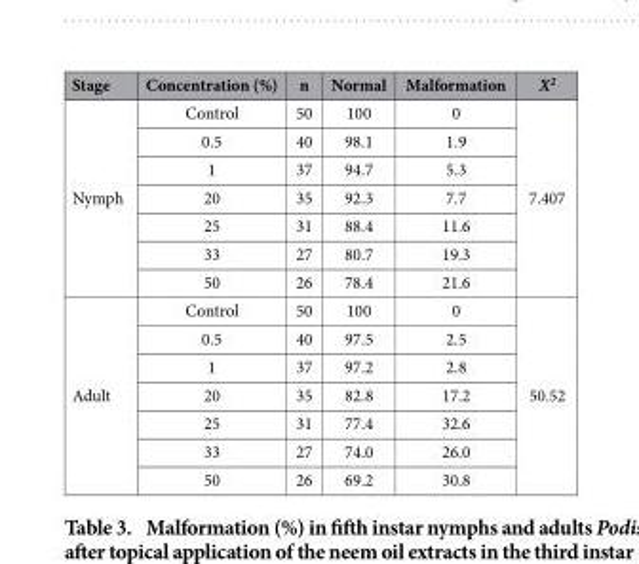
<table><thead><tr><td>Stage</td><td>Concentration (%)</td><td>n</td><td>Normal</td><td>Malformation</td><td>X<sup>2</sup></td></tr></thead><tbody><tr><td rowspan="7">Nymph</td><td>Control</td><td>50</td><td>100</td><td>0</td><td rowspan="7">7.407</td></tr><tr><td>0.5</td><td>40</td><td>98.1</td><td>1.9</td></tr><tr><td>1</td><td>37</td><td>94.7</td><td>5.3</td></tr><tr><td>20</td><td>35</td><td>92.3</td><td>7.7</td></tr><tr><td>25</td><td>31</td><td>88.4</td><td>11.6</td></tr><tr><td>33</td><td>27</td><td>80.7</td><td>19.3</td></tr><tr><td>50</td><td>26</td><td>78.4</td><td>21.6</td></tr><tr><td rowspan="7">Adult</td><td>Control</td><td>50</td><td>100</td><td>0</td><td rowspan="7">50.52</td></tr><tr><td>0.5</td><td>40</td><td>97.5</td><td>2.5</td></tr><tr><td>1</td><td>37</td><td>97.2</td><td>2.8</td></tr><tr><td>20</td><td>35</td><td>82.8</td><td>17.2</td></tr><tr><td>25</td><td>31</td><td>77.4</td><td>32.6</td></tr><tr><td>33</td><td>27</td><td>74.0</td><td>26.0</td></tr><tr><td>50</td><td>26</td><td>69.2</td><td>30.8</td></tr></tbody></table>